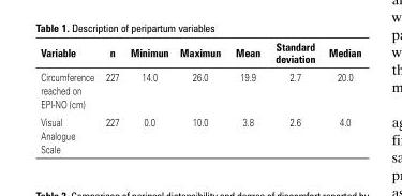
<table><thead><tr><td>Variable</td><td>n</td><td>Minimun</td><td>Maximun</td><td>Mean</td><td>Standard deviation</td><td>Median</td></tr></thead><tbody><tr><td>Circumference reached on EPI-NO (cm)</td><td>227</td><td>14.0</td><td>26.0</td><td>19.9</td><td>2.7</td><td>20.0</td></tr><tr><td>Visual Analogue Scale</td><td>227</td><td>0.0</td><td>10.0</td><td>3.8</td><td>2.6</td><td>4.0</td></tr></tbody></table>